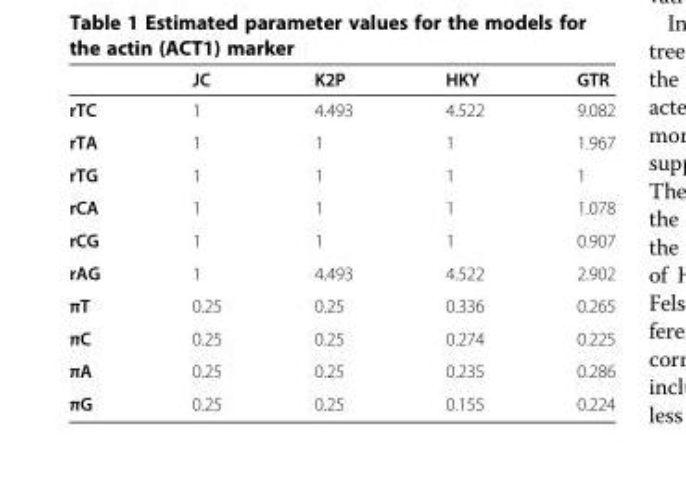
<table><thead><tr><td></td><td>JC</td><td>K2P</td><td>HKY</td><td>GTR</td></tr></thead><tbody><tr><td>rTC</td><td>1</td><td>4.493</td><td>4.522</td><td>9.082</td></tr><tr><td>rTA</td><td>1</td><td>1</td><td>1</td><td>1.967</td></tr><tr><td>rTG</td><td>1</td><td>1</td><td>1</td><td>1</td></tr><tr><td>rCA</td><td>1</td><td>1</td><td>1</td><td>1.078</td></tr><tr><td>rCG</td><td>1</td><td>1</td><td>1</td><td>0.907</td></tr><tr><td>rAG</td><td>1</td><td>4.493</td><td>4.522</td><td>2.902</td></tr><tr><td>πT</td><td>0.25</td><td>0.25</td><td>0.336</td><td>0.265</td></tr><tr><td>πC</td><td>0.25</td><td>0.25</td><td>0.274</td><td>0.225</td></tr><tr><td>πA</td><td>0.25</td><td>0.25</td><td>0.235</td><td>0.286</td></tr><tr><td>πG</td><td>0.25</td><td>0.25</td><td>0.155</td><td>0.224</td></tr></tbody></table>